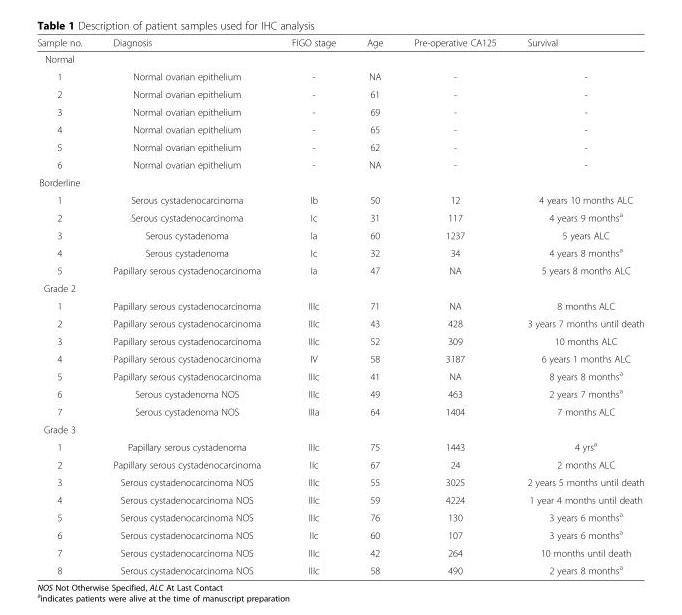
<table><thead><tr><td>Sample no.</td><td>Diagnosis</td><td>FIGO stage</td><td>Age</td><td>Pre-operative CA125</td><td>Survival</td></tr></thead><tbody><tr><td colspan="6">Normal</td></tr><tr><td>1</td><td>Normal ovarian epithelium</td><td>-</td><td>NA</td><td>-</td><td>-</td></tr><tr><td>2</td><td>Normal ovarian epithelium</td><td>-</td><td>61</td><td>-</td><td>-</td></tr><tr><td>3</td><td>Normal ovarian epithelium</td><td>-</td><td>69</td><td>-</td><td>-</td></tr><tr><td>4</td><td>Normal ovarian epithelium</td><td>-</td><td>65</td><td>-</td><td>-</td></tr><tr><td>5</td><td>Normal ovarian epithelium</td><td>-</td><td>62</td><td>-</td><td>-</td></tr><tr><td>6</td><td>Normal ovarian epithelium</td><td>-</td><td>NA</td><td>-</td><td>-</td></tr><tr><td colspan="6">Borderline</td></tr><tr><td>1</td><td>Serous cystadenocarcinoma</td><td>Ib</td><td>50</td><td>12</td><td>4 years 10 months ALC</td></tr><tr><td>2</td><td>Serous cystadenocarcinoma</td><td>Ic</td><td>31</td><td>117</td><td>4 years 9 months<sup>a</sup></td></tr><tr><td>3</td><td>Serous cystadenoma</td><td>Ia</td><td>60</td><td>1237</td><td>5 years ALC</td></tr><tr><td>4</td><td>Serous cystadenoma</td><td>Ic</td><td>32</td><td>34</td><td>4 years 8 months<sup>a</sup></td></tr><tr><td>5</td><td>Papillary serous cystadenocarcinoma</td><td>Ia</td><td>47</td><td>NA</td><td>5 years 8 months ALC</td></tr><tr><td colspan="6">Grade 2</td></tr><tr><td>1</td><td>Papillary serous cystadenocarcinoma</td><td>IIIc</td><td>71</td><td>NA</td><td>8 months ALC</td></tr><tr><td>2</td><td>Papillary serous cystadenocarcinoma</td><td>IIIc</td><td>43</td><td>428</td><td>3 years 7 months until death</td></tr><tr><td>3</td><td>Papillary serous cystadenocarcinoma</td><td>IIIc</td><td>52</td><td>309</td><td>10 months ALC</td></tr><tr><td>4</td><td>Papillary serous cystadenocarcinoma</td><td>IV</td><td>58</td><td>3187</td><td>6 years 1 months ALC</td></tr><tr><td>5</td><td>Papillary serous cystadenocarcinoma</td><td>IIIc</td><td>41</td><td>NA</td><td>8 years 8 months<sup>a</sup></td></tr><tr><td>6</td><td>Serous cystadenoma NOS</td><td>IIIc</td><td>49</td><td>463</td><td>2 years 7 months<sup>a</sup></td></tr><tr><td>7</td><td>Serous cystadenoma NOS</td><td>IIIa</td><td>64</td><td>1404</td><td>7 months ALC</td></tr><tr><td colspan="6">Grade 3</td></tr><tr><td>1</td><td>Papillary serous cystadenoma</td><td>IIIc</td><td>75</td><td>1443</td><td>4 yrs<sup>a</sup></td></tr><tr><td>2</td><td>Papillary serous cystadenocarcinoma</td><td>IIc</td><td>67</td><td>24</td><td>2 months ALC</td></tr><tr><td>3</td><td>Serous cystadenocarcinoma NOS</td><td>IIIc</td><td>55</td><td>3025</td><td>2 years 5 months until death</td></tr><tr><td>4</td><td>Serous cystadenocarcinoma NOS</td><td>IIIc</td><td>59</td><td>4224</td><td>1 year 4 months until death</td></tr><tr><td>5</td><td>Serous cystadenocarcinoma NOS</td><td>IIIc</td><td>76</td><td>130</td><td>3 years 6 months<sup>a</sup></td></tr><tr><td>6</td><td>Serous cystadenocarcinoma NOS</td><td>IIc</td><td>60</td><td>107</td><td>3 years 6 months<sup>a</sup></td></tr><tr><td>7</td><td>Serous cystadenocarcinoma NOS</td><td>IIIc</td><td>42</td><td>264</td><td>10 months until death</td></tr><tr><td>8</td><td>Serous cystadenocarcinoma NOS</td><td>IIIc</td><td>58</td><td>490</td><td>2 years 8 months<sup>a</sup></td></tr></tbody></table>